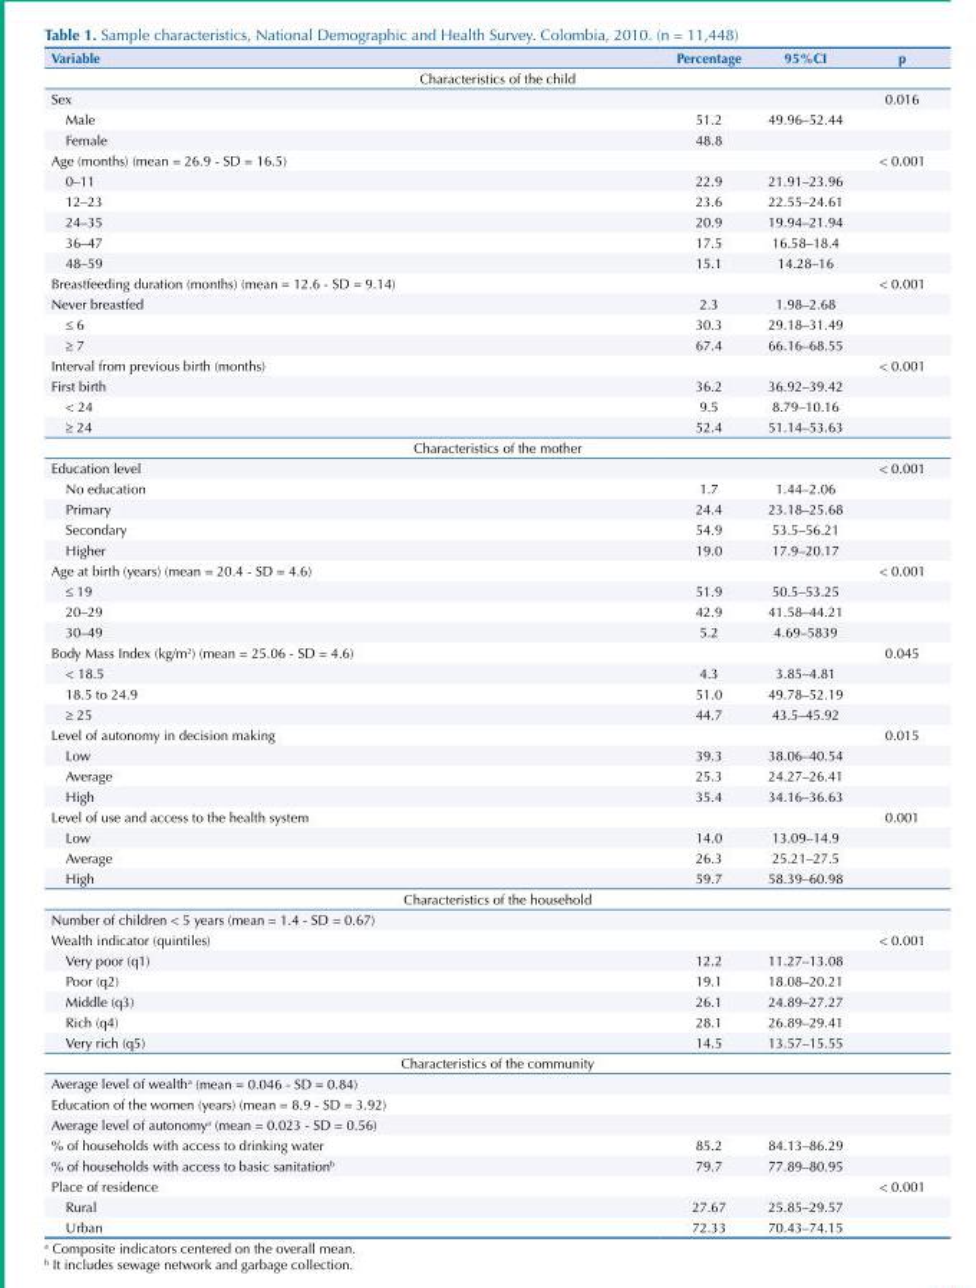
<table><thead><tr><td>Variable</td><td>Percentage</td><td>95%CI</td><td>p</td></tr></thead><tbody><tr><td colspan="4">Characteristics of the child</td></tr><tr><td>Sex</td><td></td><td></td><td>0.016</td></tr><tr><td>Male</td><td>51.2</td><td>49.96–52.44</td><td></td></tr><tr><td>Female</td><td>48.8</td><td></td><td></td></tr><tr><td>Age (months) (mean = 26.9 - SD = 16.5)</td><td></td><td></td><td>&lt; 0.001</td></tr><tr><td>0–11</td><td>22.9</td><td>21.91–23.96</td><td></td></tr><tr><td>12–23</td><td>23.6</td><td>22.55–24.61</td><td></td></tr><tr><td>24–35</td><td>20.9</td><td>19.94–21.94</td><td></td></tr><tr><td>36–47</td><td>17.5</td><td>16.58–18.4</td><td></td></tr><tr><td>48–59</td><td>15.1</td><td>14.28–16</td><td></td></tr><tr><td>Breastfeeding duration (months) (mean = 12.6 - SD = 9.14)</td><td></td><td></td><td>&lt; 0.001</td></tr><tr><td>Never breastfed</td><td>2.3</td><td>1.98–2.68</td><td></td></tr><tr><td>≤ 6</td><td>30.3</td><td>29.18–31.49</td><td></td></tr><tr><td>≥ 7</td><td>67.4</td><td>66.16–68.55</td><td></td></tr><tr><td>Interval from previous birth (months)</td><td></td><td></td><td>&lt; 0.001</td></tr><tr><td>First birth</td><td>36.2</td><td>36.92–39.42</td><td></td></tr><tr><td>&lt; 24</td><td>9.5</td><td>8.79–10.16</td><td></td></tr><tr><td>≥ 24</td><td>52.4</td><td>51.14–53.63</td><td></td></tr><tr><td colspan="4">Characteristics of the mother</td></tr><tr><td>Education level</td><td></td><td></td><td>&lt; 0.001</td></tr><tr><td>No education</td><td>1.7</td><td>1.44–2.06</td><td></td></tr><tr><td>Primary</td><td>24.4</td><td>23.18–25.68</td><td></td></tr><tr><td>Secondary</td><td>54.9</td><td>53.5–56.21</td><td></td></tr><tr><td>Higher</td><td>19.0</td><td>17.9–20.17</td><td></td></tr><tr><td>Age at birth (years) (mean = 20.4 - SD = 4.6)</td><td></td><td></td><td>&lt; 0.001</td></tr><tr><td>≤ 19</td><td>51.9</td><td>50.5–53.25</td><td></td></tr><tr><td>20–29</td><td>42.9</td><td>41.58–44.21</td><td></td></tr><tr><td>30–49</td><td>5.2</td><td>4.69–5839</td><td></td></tr><tr><td>Body Mass Index (kg/m<sup>2</sup>) (mean = 25.06 - SD = 4.6)</td><td></td><td></td><td>0.045</td></tr><tr><td>&lt; 18.5</td><td>4.3</td><td>3.85–4.81</td><td></td></tr><tr><td>18.5 to 24.9</td><td>51.0</td><td>49.78–52.19</td><td></td></tr><tr><td>≥ 25</td><td>44.7</td><td>43.5–45.92</td><td></td></tr><tr><td>Level of autonomy in decision making</td><td></td><td></td><td>0.015</td></tr><tr><td>Low</td><td>39.3</td><td>38.06–40.54</td><td></td></tr><tr><td>Average</td><td>25.3</td><td>24.27–26.41</td><td></td></tr><tr><td>High</td><td>35.4</td><td>34.16–36.63</td><td></td></tr><tr><td>Level of use and access to the health system</td><td></td><td></td><td>0.001</td></tr><tr><td>Low</td><td>14.0</td><td>13.09–14.9</td><td></td></tr><tr><td>Average</td><td>26.3</td><td>25.21–27.5</td><td></td></tr><tr><td>High</td><td>59.7</td><td>58.39–60.98</td><td></td></tr><tr><td colspan="4">Characteristics of the household</td></tr><tr><td colspan="4">Number of children &lt; 5 years (mean = 1.4 - SD = 0.67)</td></tr><tr><td>Wealth indicator (quintiles)</td><td></td><td></td><td>&lt; 0.001</td></tr><tr><td>Very poor (q1)</td><td>12.2</td><td>11.27–13.08</td><td></td></tr><tr><td>Poor (q2)</td><td>19.1</td><td>18.08–20.21</td><td></td></tr><tr><td>Middle (q3)</td><td>26.1</td><td>24.89–27.27</td><td></td></tr><tr><td>Rich (q4)</td><td>28.1</td><td>26.89–29.41</td><td></td></tr><tr><td>Very rich (q5)</td><td>14.5</td><td>13.57–15.55</td><td></td></tr><tr><td colspan="4">Characteristics of the community</td></tr><tr><td colspan="4">Average level of wealth<sup>a</sup> (mean = 0.046 - SD = 0.84)</td></tr><tr><td colspan="4">Education of the women (years) (mean = 8.9 - SD = 3.92)</td></tr><tr><td colspan="4">Average level of autonomy<sup>a</sup> (mean = 0.023 - SD = 0.56)</td></tr><tr><td>% of households with access to drinking water</td><td>85.2</td><td>84.13–86.29</td><td></td></tr><tr><td>% of households with access to basic sanitation<sup>b</sup></td><td>79.7</td><td>77.89–80.95</td><td></td></tr><tr><td>Place of residence</td><td></td><td></td><td>&lt; 0.001</td></tr><tr><td>Rural</td><td>27.67</td><td>25.85–29.57</td><td></td></tr><tr><td>Urban</td><td>72.33</td><td>70.43–74.15</td><td></td></tr></tbody></table>